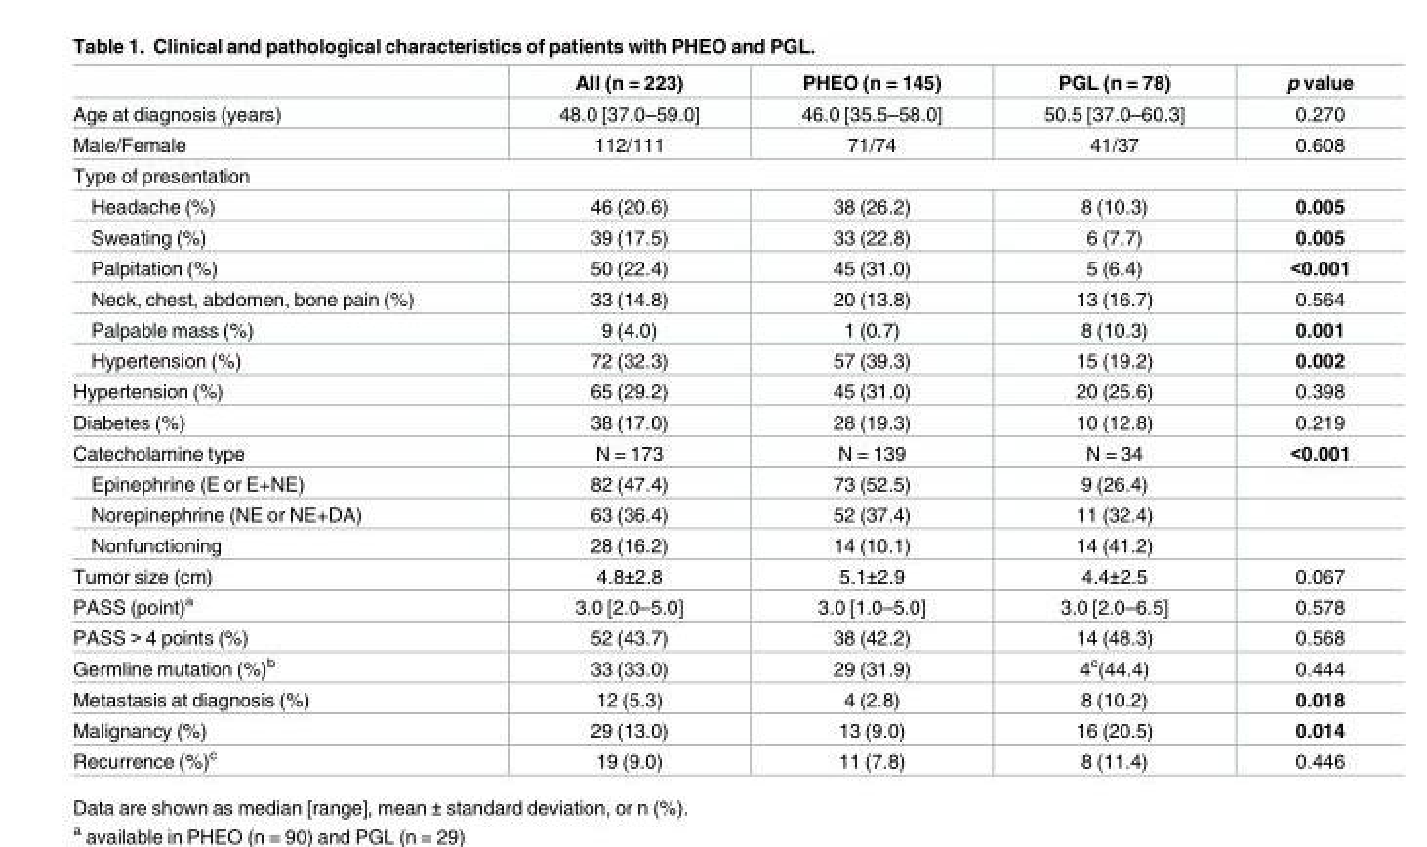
<table><thead><tr><td></td><td>All (n = 223)</td><td>PHEO (n = 145)</td><td>PGL (n = 78)</td><td>p value</td></tr></thead><tbody><tr><td>Age at diagnosis (years)</td><td>48.0 [37.0–59.0]</td><td>46.0 [35.5–58.0]</td><td>50.5 [37.0–60.3]</td><td>0.270</td></tr><tr><td>Male/Female</td><td>112/111</td><td>71/74</td><td>41/37</td><td>0.608</td></tr><tr><td colspan="5">Type of presentation</td></tr><tr><td>Headache (%)</td><td>46 (20.6)</td><td>38 (26.2)</td><td>8 (10.3)</td><td>0.005</td></tr><tr><td>Sweating (%)</td><td>39 (17.5)</td><td>33 (22.8)</td><td>6 (7.7)</td><td>0.005</td></tr><tr><td>Palpitation (%)</td><td>50 (22.4)</td><td>45 (31.0)</td><td>5 (6.4)</td><td>&lt;0.001</td></tr><tr><td>Neck, chest, abdomen, bone pain (%)</td><td>33 (14.8)</td><td>20 (13.8)</td><td>13 (16.7)</td><td>0.564</td></tr><tr><td>Palpable mass (%)</td><td>9 (4.0)</td><td>1 (0.7)</td><td>8 (10.3)</td><td>0.001</td></tr><tr><td>Hypertension (%)</td><td>72 (32.3)</td><td>57 (39.3)</td><td>15 (19.2)</td><td>0.002</td></tr><tr><td>Hypertension (%)</td><td>65 (29.2)</td><td>45 (31.0)</td><td>20 (25.6)</td><td>0.398</td></tr><tr><td>Diabetes (%)</td><td>38 (17.0)</td><td>28 (19.3)</td><td>10 (12.8)</td><td>0.219</td></tr><tr><td>Catecholamine type</td><td>N = 173</td><td>N = 139</td><td>N = 34</td><td>&lt;0.001</td></tr><tr><td>Epinephrine (E or E+NE)</td><td>82 (47.4)</td><td>73 (52.5)</td><td>9 (26.4)</td><td></td></tr><tr><td>Norepinephrine (NE or NE+DA)</td><td>63 (36.4)</td><td>52 (37.4)</td><td>11 (32.4)</td><td></td></tr><tr><td>Nonfunctioning</td><td>28 (16.2)</td><td>14 (10.1)</td><td>14 (41.2)</td><td></td></tr><tr><td>Tumor size (cm)</td><td>4.8±2.8</td><td>5.1±2.9</td><td>4.4±2.5</td><td>0.067</td></tr><tr><td>PASS (point)<sup>a</sup></td><td>3.0 [2.0–5.0]</td><td>3.0 [1.0–5.0]</td><td>3.0 [2.0–6.5]</td><td>0.578</td></tr><tr><td>PASS &gt; 4 points (%)</td><td>52 (43.7)</td><td>38 (42.2)</td><td>14 (48.3)</td><td>0.568</td></tr><tr><td>Germline mutation (%)<sup>b</sup></td><td>33 (33.0)</td><td>29 (31.9)</td><td>4<sup>c</sup>(44.4)</td><td>0.444</td></tr><tr><td>Metastasis at diagnosis (%)</td><td>12 (5.3)</td><td>4 (2.8)</td><td>8 (10.2)</td><td>0.018</td></tr><tr><td>Malignancy (%)</td><td>29 (13.0)</td><td>13 (9.0)</td><td>16 (20.5)</td><td>0.014</td></tr><tr><td>Recurrence (%)<sup>c</sup></td><td>19 (9.0)</td><td>11 (7.8)</td><td>8 (11.4)</td><td>0.446</td></tr></tbody></table>